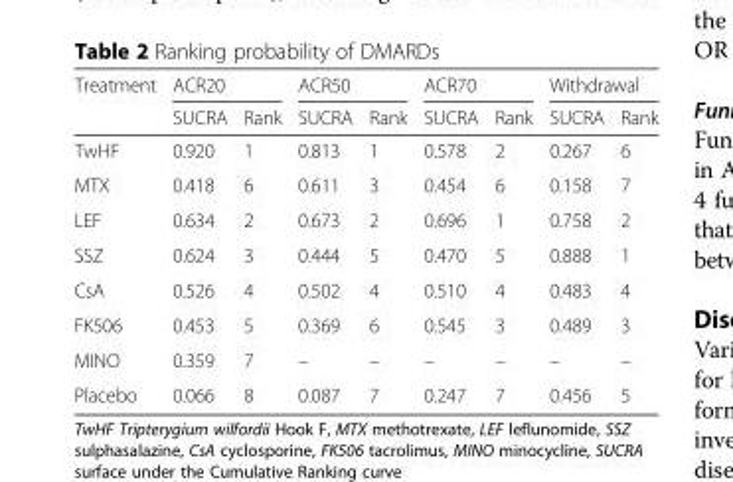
<table><thead><tr><td rowspan="2">Treatment</td><td colspan="2">ACR20</td><td colspan="2">ACR50</td><td colspan="2">ACR70</td><td colspan="2">Withdrawal</td></tr><tr><td>SUCRA</td><td>Rank</td><td>SUCRA</td><td>Rank</td><td>SUCRA</td><td>Rank</td><td>SUCRA</td><td>Rank</td></tr></thead><tbody><tr><td>TwHF</td><td>0.920</td><td>1</td><td>0.813</td><td>1</td><td>0.578</td><td>2</td><td>0.267</td><td>6</td></tr><tr><td>MTX</td><td>0.418</td><td>6</td><td>0.611</td><td>3</td><td>0.454</td><td>6</td><td>0.158</td><td>7</td></tr><tr><td>LEF</td><td>0.634</td><td>2</td><td>0.673</td><td>2</td><td>0.696</td><td>1</td><td>0.758</td><td>2</td></tr><tr><td>SSZ</td><td>0.624</td><td>3</td><td>0.444</td><td>5</td><td>0.470</td><td>5</td><td>0.888</td><td>1</td></tr><tr><td>CsA</td><td>0.526</td><td>4</td><td>0.502</td><td>4</td><td>0.510</td><td>4</td><td>0.483</td><td>4</td></tr><tr><td>FK506</td><td>0.453</td><td>5</td><td>0.369</td><td>6</td><td>0.545</td><td>3</td><td>0.489</td><td>3</td></tr><tr><td>MINO</td><td>0.359</td><td>7</td><td>–</td><td>–</td><td>–</td><td>–</td><td>–</td><td>–</td></tr><tr><td>Placebo</td><td>0.066</td><td>8</td><td>0.087</td><td>7</td><td>0.247</td><td>7</td><td>0.456</td><td>5</td></tr></tbody></table>